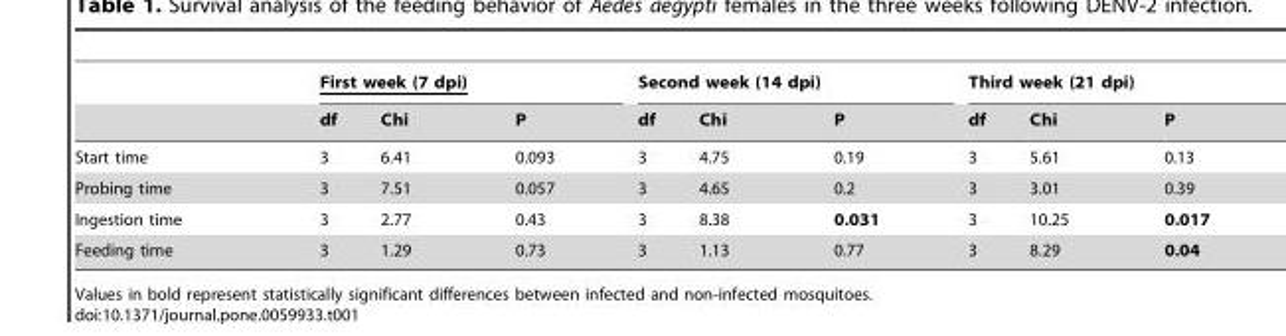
<table><thead><tr><td rowspan="2"></td><td colspan="3">First week (7 dpi)</td><td colspan="3">Second week (14 dpi)</td><td colspan="3">Third week (21 dpi)</td></tr><tr><td>df</td><td>Chi</td><td>P</td><td>df</td><td>Chi</td><td>P</td><td>df</td><td>Chi</td><td>P</td></tr></thead><tbody><tr><td>Start time</td><td>3</td><td>6.41</td><td>0.093</td><td>3</td><td>4.75</td><td>0.19</td><td>3</td><td>5.61</td><td>0.13</td></tr><tr><td>Probing time</td><td>3</td><td>7.51</td><td>0.057</td><td>3</td><td>4.65</td><td>0.2</td><td>3</td><td>3.01</td><td>0.39</td></tr><tr><td>Ingestion time</td><td>3</td><td>2.77</td><td>0.43</td><td>3</td><td>8.38</td><td>0.031</td><td>3</td><td>10.25</td><td>0.017</td></tr><tr><td>Feeding time</td><td>3</td><td>1.29</td><td>0.73</td><td>3</td><td>1.13</td><td>0.77</td><td>3</td><td>8.29</td><td>0.04</td></tr></tbody></table>